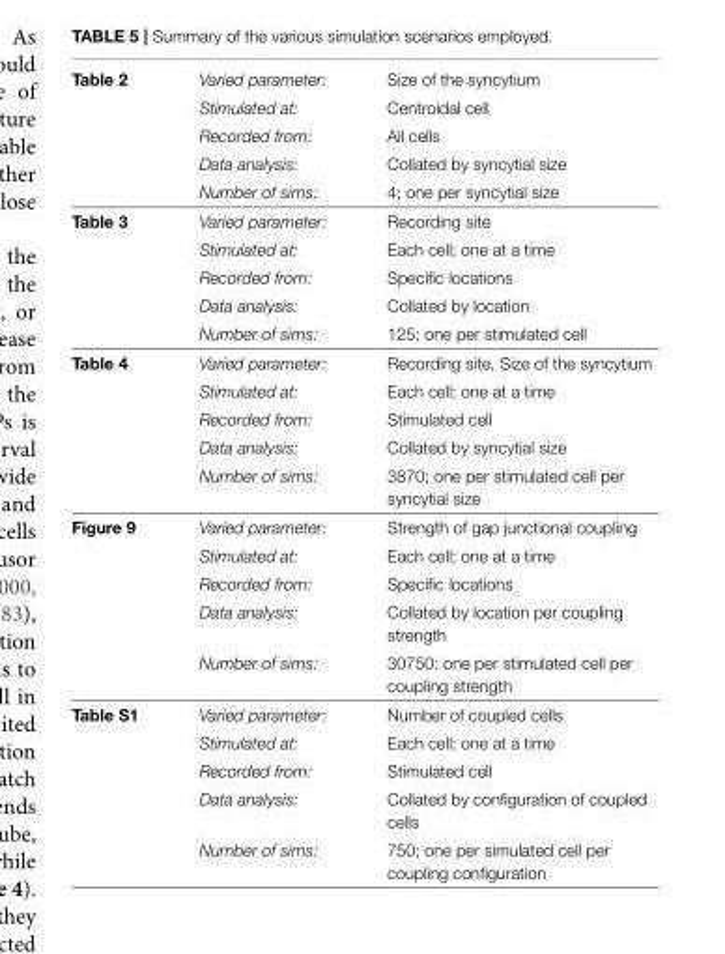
<table><tbody><tr><td rowspan="5">Table 2</td><td>Varied parameter:</td><td>Size of the syncytium</td></tr><tr><td>Stimulated at:</td><td>Centroidal cell</td></tr><tr><td>Recorded from:</td><td>All cells</td></tr><tr><td>Data analysis:</td><td>Collated by syncytial size</td></tr><tr><td>Number of sims:</td><td>4; one per syncytial size</td></tr><tr><td rowspan="5">Table 3</td><td>Varied parameter:</td><td>Recording site</td></tr><tr><td>Stimulated at:</td><td>Each cell; one at a time</td></tr><tr><td>Recorded from:</td><td>Specific locations</td></tr><tr><td>Data analysis:</td><td>Collated by location</td></tr><tr><td>Number of sims:</td><td>125; one per stimulated cell</td></tr><tr><td rowspan="5">Table 4</td><td>Varied parameter:</td><td>Recording site, Size of the syncytium</td></tr><tr><td>Stimulated at:</td><td>Each cell; one at a time</td></tr><tr><td>Recorded from:</td><td>Stimulated cell</td></tr><tr><td>Data analysis:</td><td>Collated by syncytial size</td></tr><tr><td>Number of sims:</td><td>3870; one per stimulated cell per syncytial size</td></tr><tr><td rowspan="5">Figure 9</td><td>Varied parameter:</td><td>Strength of gap junctional coupling</td></tr><tr><td>Stimulated at:</td><td>Each cell; one at a time</td></tr><tr><td>Recorded from:</td><td>Specific locations</td></tr><tr><td>Data analysis:</td><td>Collated by location per coupling strength</td></tr><tr><td>Number of sims:</td><td>30750: one per stimulated cell per coupling strength</td></tr><tr><td rowspan="5">Table S1</td><td>Varied parameter:</td><td>Number of coupled cells</td></tr><tr><td>Stimulated at:</td><td>Each cell; one at a time</td></tr><tr><td>Recorded from:</td><td>Stimulated cell</td></tr><tr><td>Data analysis:</td><td>Collated by configuration of coupled cells</td></tr><tr><td>Number of sims:</td><td>750; one per simulated cell per coupling configuration</td></tr></tbody></table>